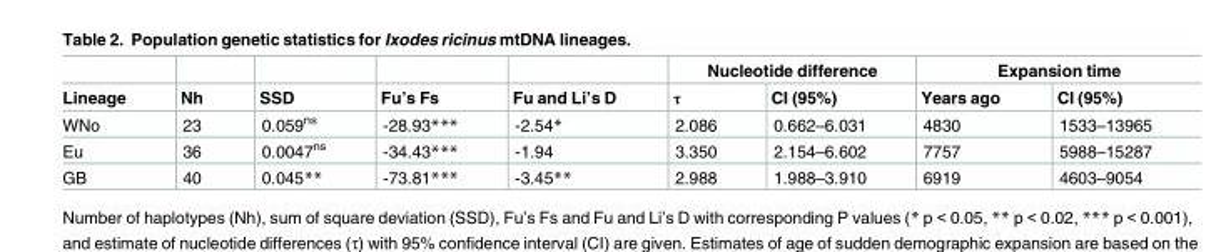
<table><thead><tr><td rowspan="2">Lineage</td><td rowspan="2">Nh</td><td rowspan="2">SSD</td><td rowspan="2">Fu’s Fs</td><td rowspan="2">Fu and Li’s D</td><td colspan="2">Nucleotide difference</td><td colspan="2">Expansion time</td></tr><tr><td>τ</td><td>CI (95%)</td><td>Years ago</td><td>CI (95%)</td></tr></thead><tbody><tr><td>WNo</td><td>23</td><td>0.059<sup>ns</sup></td><td>-28.93***</td><td>-2.54*</td><td>2.086</td><td>0.662–6.031</td><td>4830</td><td>1533–13965</td></tr><tr><td>Eu</td><td>36</td><td>0.0047<sup>ns</sup></td><td>-34.43***</td><td>-1.94</td><td>3.350</td><td>2.154–6.602</td><td>7757</td><td>5988–15287</td></tr><tr><td>GB</td><td>40</td><td>0.045**</td><td>-73.81***</td><td>-3.45**</td><td>2.988</td><td>1.988–3.910</td><td>6919</td><td>4603–9054</td></tr></tbody></table>